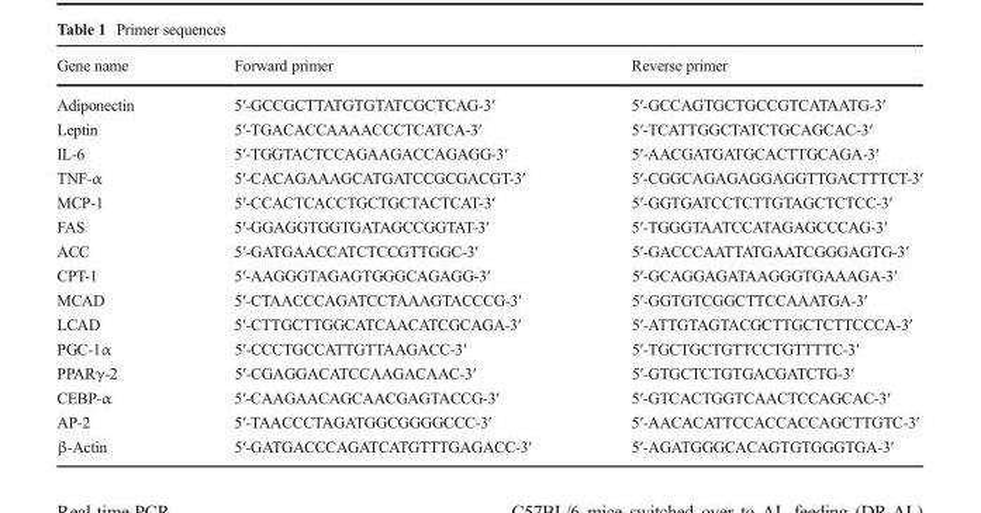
<table><thead><tr><td>Gene name</td><td>Forward primer</td><td>Reverse primer</td></tr></thead><tbody><tr><td>Adiponectin</td><td>5′-GCCGCTTATGTGTATCGCTCAG-3′</td><td>5′-GCCAGTGCTGCCGTCATAATG-3′</td></tr><tr><td>Leptin</td><td>5′-TGACACCAAAACCCTCATCA-3′</td><td>5′-TCATTGGCTATCTGCAGCAC-3′</td></tr><tr><td>IL-6</td><td>5′-TGGTACTCCAGAAGACCAGAGG-3′</td><td>5′-AACGATGATGCACTTGCAGA-3′</td></tr><tr><td>TNF-α</td><td>5′-CACAGAAAGCATGATCCGCGACGT-3′</td><td>5′-CGGCAGAGAGGAGGTTGACTTTCT-3′</td></tr><tr><td>MCP-1</td><td>5′-CCACTCACCTGCTGCTACTCAT-3′</td><td>5′-GGTGATCCTCTTGTAGCTCTCC-3′</td></tr><tr><td>FAS</td><td>5′-GGAGGTGGTGATAGCCGGTAT-3′</td><td>5′-TGGGTAATCCATAGAGCCCAG-3′</td></tr><tr><td>ACC</td><td>5′-GATGAACCATCTCCGTTGGC-3′</td><td>5′-GACCCAATTATGAATCGGGAGTG-3′</td></tr><tr><td>CPT-1</td><td>5′-AAGGGTAGAGTGGGCAGAGG-3′</td><td>5′-GCAGGAGATAAGGGTGAAAGA-3′</td></tr><tr><td>MCAD</td><td>5′-CTAACCCAGATCCTAAAGTACCCG-3′</td><td>5′-GGTGTCGGCTTCCAAATGA-3′</td></tr><tr><td>LCAD</td><td>5′-CTTGCTTGGCATCAACATCGCAGA-3′</td><td>5′-ATTGTAGTACGCTTGCTCTTCCCA-3′</td></tr><tr><td>PGC-1α</td><td>5′-CCCTGCCATTGTTAAGACC-3′</td><td>5′-TGCTGCTGTTCCTGTTTTC-3′</td></tr><tr><td>PPARγ-2</td><td>5′-CGAGGACATCCAAGACAAC-3′</td><td>5′-GTGCTCTGTGACGATCTG-3′</td></tr><tr><td>CEBP-α</td><td>5′-CAAGAACAGCAACGAGTACCG-3′</td><td>5′-GTCACTGGTCAACTCCAGCAC-3′</td></tr><tr><td>AP-2</td><td>5′-TAACCCTAGATGGCGGGGCCC-3′</td><td>5′-AACACATTCCACCACCAGCTTGTC-3′</td></tr><tr><td>β-Actin</td><td>5′-GATGACCCAGATCATGTTTGAGACC-3′</td><td>5′-AGATGGGCACAGTGTGGGTGA-3′</td></tr></tbody></table>